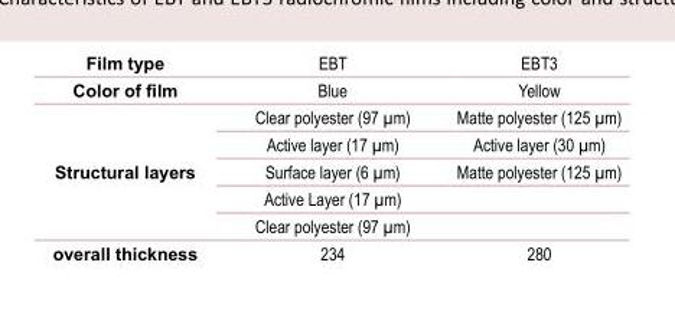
<table><thead><tr><td>Film type</td><td>EBT</td><td>EBT3</td></tr></thead><tbody><tr><td>Color of film</td><td>Blue</td><td>Yellow</td></tr><tr><td rowspan="5">Structural layers</td><td>Clear polyester (97 µm)</td><td>Matte polyester (125 µm)</td></tr><tr><td>Active layer (17 µm)</td><td>Active layer (30 µm)</td></tr><tr><td>Surface layer (6 µm)</td><td>Matte polyester (125 µm)</td></tr><tr><td>Active Layer (17 µm)</td><td></td></tr><tr><td>Clear polyester (97 µm)</td><td></td></tr><tr><td>overall thickness</td><td>234</td><td>280</td></tr></tbody></table>